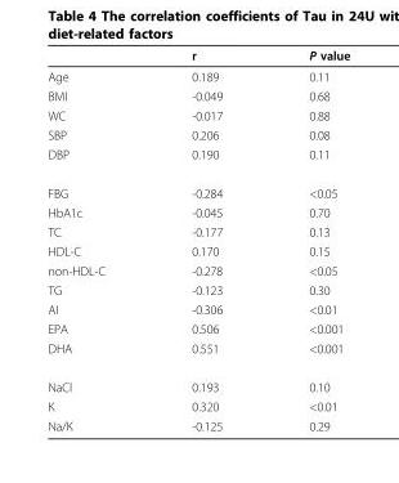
<table><thead><tr><td></td><td>r</td><td>P value</td></tr></thead><tbody><tr><td>Age</td><td>0.189</td><td>0.11</td></tr><tr><td>BMI</td><td>-0.049</td><td>0.68</td></tr><tr><td>WC</td><td>-0.017</td><td>0.88</td></tr><tr><td>SBP</td><td>0.206</td><td>0.08</td></tr><tr><td>DBP</td><td>0.190</td><td>0.11</td></tr><tr><td>FBG</td><td>-0.284</td><td>&lt;0.05</td></tr><tr><td>HbA1c</td><td>-0.045</td><td>0.70</td></tr><tr><td>TC</td><td>-0.177</td><td>0.13</td></tr><tr><td>HDL-C</td><td>0.170</td><td>0.15</td></tr><tr><td>non-HDL-C</td><td>-0.278</td><td>&lt;0.05</td></tr><tr><td>TG</td><td>-0.123</td><td>0.30</td></tr><tr><td>AI</td><td>-0.306</td><td>&lt;0.01</td></tr><tr><td>EPA</td><td>0.506</td><td>&lt;0.001</td></tr><tr><td>DHA</td><td>0.551</td><td>&lt;0.001</td></tr><tr><td>NaCl</td><td>0.193</td><td>0.10</td></tr><tr><td>K</td><td>0.320</td><td>&lt;0.01</td></tr><tr><td>Na/K</td><td>-0.125</td><td>0.29</td></tr></tbody></table>